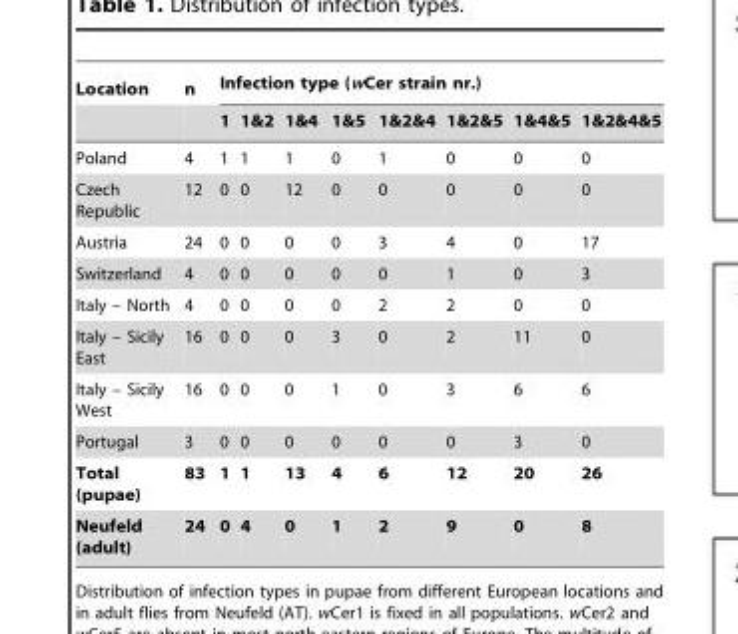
<table><thead><tr><td rowspan="2">Location</td><td rowspan="2">n</td><td colspan="8">Infection type (wCer strain nr.)</td></tr><tr><td>1</td><td>1&amp;2</td><td>1&amp;4</td><td>1&amp;5</td><td>1&amp;2&amp;4</td><td>1&amp;2&amp;5</td><td>1&amp;4&amp;5</td><td>1&amp;2&amp;4&amp;5</td></tr></thead><tbody><tr><td>Poland</td><td>4</td><td>1</td><td>1</td><td>1</td><td>0</td><td>1</td><td>0</td><td>0</td><td>0</td></tr><tr><td>Czech Republic</td><td>12</td><td>0</td><td>0</td><td>12</td><td>0</td><td>0</td><td>0</td><td>0</td><td>0</td></tr><tr><td>Austria</td><td>24</td><td>0</td><td>0</td><td>0</td><td>0</td><td>3</td><td>4</td><td>0</td><td>17</td></tr><tr><td>Switzerland</td><td>4</td><td>0</td><td>0</td><td>0</td><td>0</td><td>0</td><td>1</td><td>0</td><td>3</td></tr><tr><td>Italy – North</td><td>4</td><td>0</td><td>0</td><td>0</td><td>0</td><td>2</td><td>2</td><td>0</td><td>0</td></tr><tr><td>Italy – Sicily East</td><td>16</td><td>0</td><td>0</td><td>0</td><td>3</td><td>0</td><td>2</td><td>11</td><td>0</td></tr><tr><td>Italy – Sicily West</td><td>16</td><td>0</td><td>0</td><td>0</td><td>1</td><td>0</td><td>3</td><td>6</td><td>6</td></tr><tr><td>Portugal</td><td>3</td><td>0</td><td>0</td><td>0</td><td>0</td><td>0</td><td>0</td><td>3</td><td>0</td></tr><tr><td>Total (pupae)</td><td>83</td><td>1</td><td>1</td><td>13</td><td>4</td><td>6</td><td>12</td><td>20</td><td>26</td></tr><tr><td>Neufeld (adult)</td><td>24</td><td>0</td><td>4</td><td>0</td><td>1</td><td>2</td><td>9</td><td>0</td><td>8</td></tr></tbody></table>